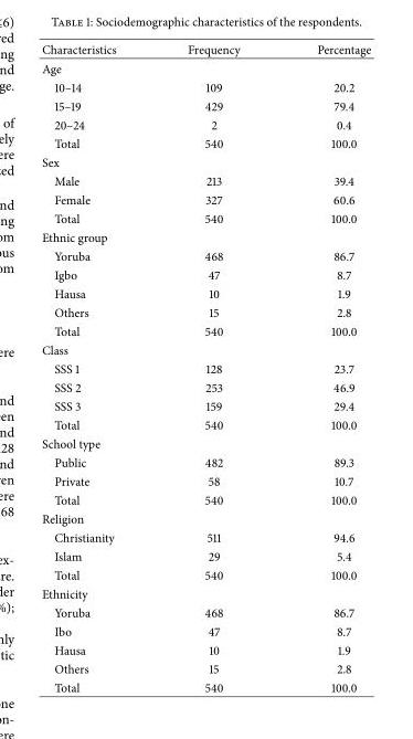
<table><thead><tr><td>Characteristics</td><td>Frequency</td><td>Percentage</td></tr></thead><tbody><tr><td colspan="3">Age</td></tr><tr><td>10–14</td><td>109</td><td>20.2</td></tr><tr><td>15–19</td><td>429</td><td>79.4</td></tr><tr><td>20–24</td><td>2</td><td>0.4</td></tr><tr><td>Total</td><td>540</td><td>100.0</td></tr><tr><td colspan="3">Sex</td></tr><tr><td>Male</td><td>213</td><td>39.4</td></tr><tr><td>Female</td><td>327</td><td>60.6</td></tr><tr><td>Total</td><td>540</td><td>100.0</td></tr><tr><td colspan="3">Ethnic group</td></tr><tr><td>Yoruba</td><td>468</td><td>86.7</td></tr><tr><td>Igbo</td><td>47</td><td>8.7</td></tr><tr><td>Hausa</td><td>10</td><td>1.9</td></tr><tr><td>Others</td><td>15</td><td>2.8</td></tr><tr><td>Total</td><td>540</td><td>100.0</td></tr><tr><td colspan="3">Class</td></tr><tr><td>SSS 1</td><td>128</td><td>23.7</td></tr><tr><td>SSS 2</td><td>253</td><td>46.9</td></tr><tr><td>SSS 3</td><td>159</td><td>29.4</td></tr><tr><td>Total</td><td>540</td><td>100.0</td></tr><tr><td colspan="3">School type</td></tr><tr><td>Public</td><td>482</td><td>89.3</td></tr><tr><td>Private</td><td>58</td><td>10.7</td></tr><tr><td>Total</td><td>540</td><td>100.0</td></tr><tr><td colspan="3">Religion</td></tr><tr><td>Christianity</td><td>511</td><td>94.6</td></tr><tr><td>Islam</td><td>29</td><td>5.4</td></tr><tr><td>Total</td><td>540</td><td>100.0</td></tr><tr><td colspan="3">Ethnicity</td></tr><tr><td>Yoruba</td><td>468</td><td>86.7</td></tr><tr><td>Ibo</td><td>47</td><td>8.7</td></tr><tr><td>Hausa</td><td>10</td><td>1.9</td></tr><tr><td>Others</td><td>15</td><td>2.8</td></tr><tr><td>Total</td><td>540</td><td>100.0</td></tr></tbody></table>